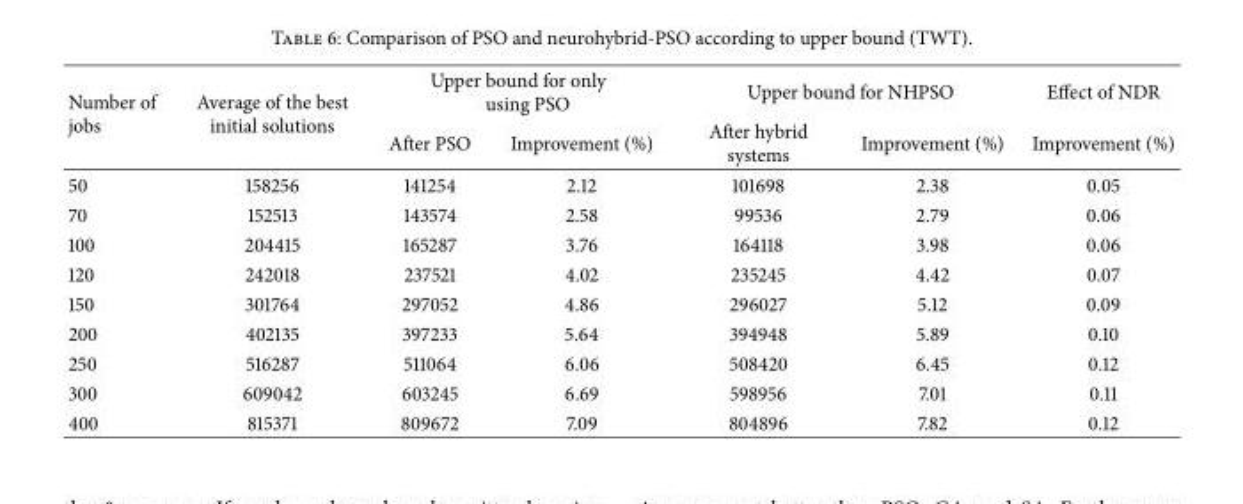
<table><thead><tr><td rowspan="2">Number of jobs</td><td rowspan="2">Average of the best initial solutions</td><td colspan="2">Upper bound for only using PSO</td><td colspan="2">Upper bound for NHPSO</td><td rowspan="2">Effect of NDR Improvement (%)</td></tr><tr><td>After PSO</td><td>Improvement (%)</td><td>After hybrid systems</td><td>Improvement (%)</td></tr></thead><tbody><tr><td>50</td><td>158256</td><td>141254</td><td>2.12</td><td>101698</td><td>2.38</td><td>0.05</td></tr><tr><td>70</td><td>152513</td><td>143574</td><td>2.58</td><td>99536</td><td>2.79</td><td>0.06</td></tr><tr><td>100</td><td>204415</td><td>165287</td><td>3.76</td><td>164118</td><td>3.98</td><td>0.06</td></tr><tr><td>120</td><td>242018</td><td>237521</td><td>4.02</td><td>235245</td><td>4.42</td><td>0.07</td></tr><tr><td>150</td><td>301764</td><td>297052</td><td>4.86</td><td>296027</td><td>5.12</td><td>0.09</td></tr><tr><td>200</td><td>402135</td><td>397233</td><td>5.64</td><td>394948</td><td>5.89</td><td>0.10</td></tr><tr><td>250</td><td>516287</td><td>511064</td><td>6.06</td><td>508420</td><td>6.45</td><td>0.12</td></tr><tr><td>300</td><td>609042</td><td>603245</td><td>6.69</td><td>598956</td><td>7.01</td><td>0.11</td></tr><tr><td>400</td><td>815371</td><td>809672</td><td>7.09</td><td>804896</td><td>7.82</td><td>0.12</td></tr></tbody></table>